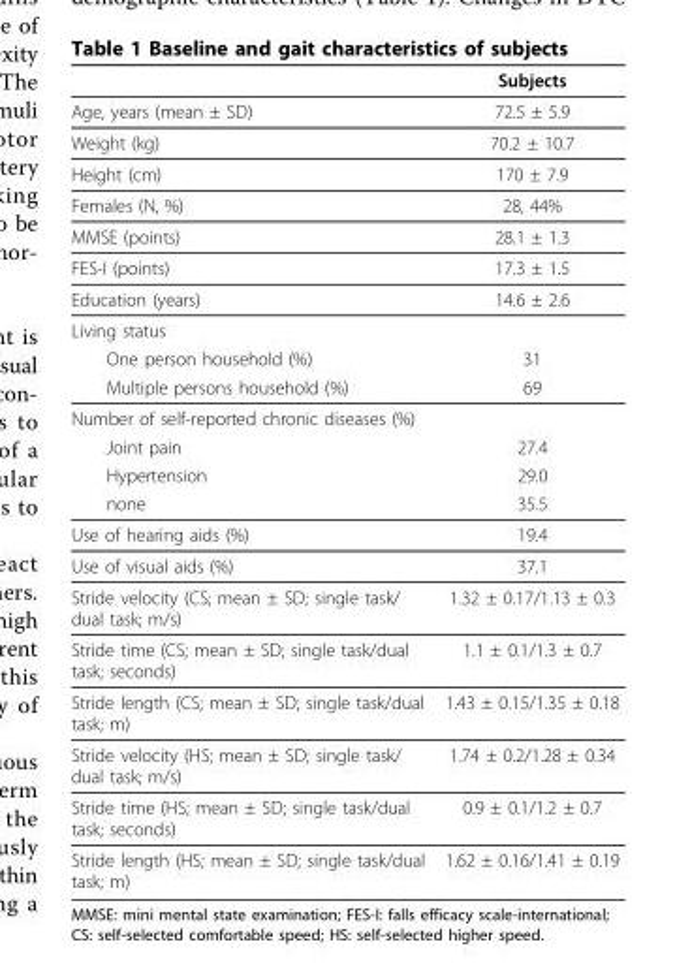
<table><thead><tr><td></td><td>Subjects</td></tr></thead><tbody><tr><td>Age, years (mean ± SD)</td><td>72.5 ± 5.9</td></tr><tr><td>Weight (kg)</td><td>70.2 ± 10.7</td></tr><tr><td>Height (cm)</td><td>170 ± 7.9</td></tr><tr><td>Females (N, %)</td><td>28, 44%</td></tr><tr><td>MMSE (points)</td><td>28.1 ± 1.3</td></tr><tr><td>FES-I (points)</td><td>17.3 ± 1.5</td></tr><tr><td>Education (years)</td><td>14.6 ± 2.6</td></tr><tr><td colspan="2">Living status</td></tr><tr><td>One person household (%)</td><td>31</td></tr><tr><td>Multiple persons household (%)</td><td>69</td></tr><tr><td colspan="2">Number of self-reported chronic diseases (%)</td></tr><tr><td>Joint pain</td><td>27.4</td></tr><tr><td>Hypertension</td><td>29.0</td></tr><tr><td>none</td><td>35.5</td></tr><tr><td>Use of hearing aids (%)</td><td>19.4</td></tr><tr><td>Use of visual aids (%)</td><td>37.1</td></tr><tr><td>Stride velocity (CS; mean ± SD; single task/ dual task; m/s)</td><td>1.32 ± 0.17/1.13 ± 0.3</td></tr><tr><td>Stride time (CS; mean ± SD; single task/dual task; seconds)</td><td>1.1 ± 0.1/1.3 ± 0.7</td></tr><tr><td>Stride length (CS; mean ± SD; single task/dual task; m)</td><td>1.43 ± 0.15/1.35 ± 0.18</td></tr><tr><td>Stride velocity (HS; mean ± SD; single task/ dual task; m/s)</td><td>1.74 ± 0.2/1.28 ± 0.34</td></tr><tr><td>Stride time (HS; mean ± SD; single task/dual task; seconds)</td><td>0.9 ± 0.1/1.2 ± 0.7</td></tr><tr><td>Stride length (HS; mean ± SD; single task/dual task; m)</td><td>1.62 ± 0.16/1.41 ± 0.19</td></tr></tbody></table>